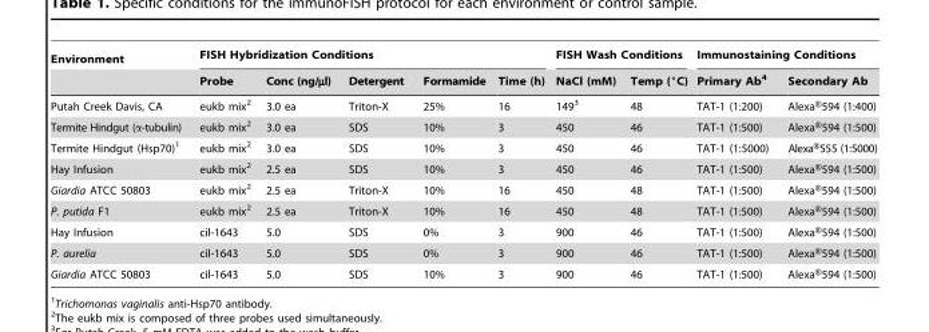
<table><thead><tr><td rowspan="2">Environment</td><td colspan="5">FISH Hybridization Conditions</td><td colspan="2">FISH Wash Conditions</td><td colspan="2">Immunostaining Conditions</td></tr><tr><td>Probe</td><td>Conc (ng/µl)</td><td>Detergent</td><td>Formamide</td><td>Time (h)</td><td>NaCl (mM)</td><td>Temp (°C)</td><td>Primary Ab<sup>4</sup></td><td>Secondary Ab</td></tr></thead><tbody><tr><td>Putah Creek Davis, CA</td><td>eukb mix<sup>2</sup></td><td>3.0 ea</td><td>Triton-X</td><td>25%</td><td>16</td><td>149<sup>3</sup></td><td>48</td><td>TAT-1 (1:200)</td><td>Alexa®594 (1:400)</td></tr><tr><td>Termite Hindgut (α-tubulin)</td><td>eukb mix<sup>2</sup></td><td>3.0 ea</td><td>SDS</td><td>10%</td><td>3</td><td>450</td><td>46</td><td>TAT-1 (1:500)</td><td>Alexa®594 (1:500)</td></tr><tr><td>Termite Hindgut (Hsp70)<sup>1</sup></td><td>eukb mix<sup>2</sup></td><td>3.0 ea</td><td>SDS</td><td>10%</td><td>3</td><td>450</td><td>46</td><td>TAT-1 (1:5000)</td><td>Alexa®555 (1:5000)</td></tr><tr><td>Hay Infusion</td><td>eukb mix<sup>2</sup></td><td>2.5 ea</td><td>SDS</td><td>10%</td><td>3</td><td>450</td><td>46</td><td>TAT-1 (1:500)</td><td>Alexa®594 (1:500)</td></tr><tr><td>Giardia ATCC 50803</td><td>eukb mix<sup>2</sup></td><td>2.5 ea</td><td>Triton-X</td><td>10%</td><td>16</td><td>450</td><td>48</td><td>TAT-1 (1:500)</td><td>Alexa®594 (1:500)</td></tr><tr><td>P. putida F1</td><td>eukb mix<sup>2</sup></td><td>2.5 ea</td><td>Triton-X</td><td>10%</td><td>16</td><td>450</td><td>48</td><td>TAT-1 (1:500)</td><td>Alexa®594 (1:500)</td></tr><tr><td>Hay Infusion</td><td>cil-1643</td><td>5.0</td><td>SDS</td><td>0%</td><td>3</td><td>900</td><td>46</td><td>TAT-1 (1:500)</td><td>Alexa®594 (1:500)</td></tr><tr><td>P. aurelia</td><td>cil-1643</td><td>5.0</td><td>SDS</td><td>0%</td><td>3</td><td>900</td><td>46</td><td>TAT-1 (1:500)</td><td>Alexa®594 (1:500)</td></tr><tr><td>Giardia ATCC 50803</td><td>cil-1643</td><td>5.0</td><td>SDS</td><td>10%</td><td>3</td><td>900</td><td>46</td><td>TAT-1 (1:500)</td><td>Alexa®594 (1:500)</td></tr></tbody></table>